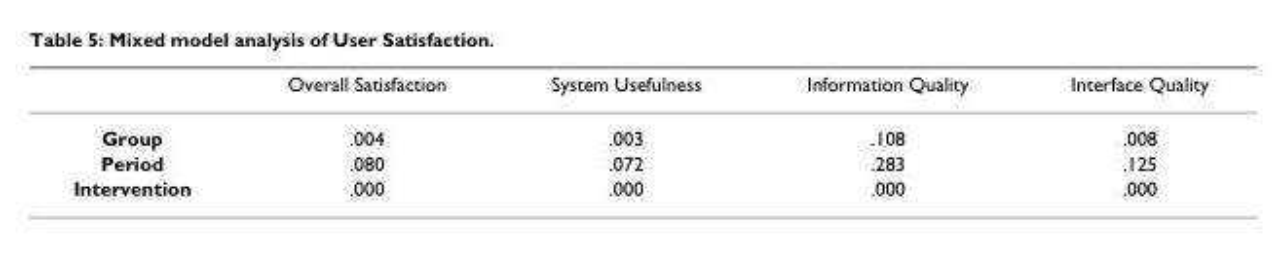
<table><thead><tr><td></td><td>Overall Satisfaction</td><td>System Usefulness</td><td>Information Quality</td><td>Interface Quality</td></tr></thead><tbody><tr><td>Group</td><td>.004</td><td>.003</td><td>.108</td><td>.008</td></tr><tr><td>Period</td><td>.080</td><td>.072</td><td>.283</td><td>.125</td></tr><tr><td>Intervention</td><td>.000</td><td>.000</td><td>.000</td><td>.000</td></tr></tbody></table>